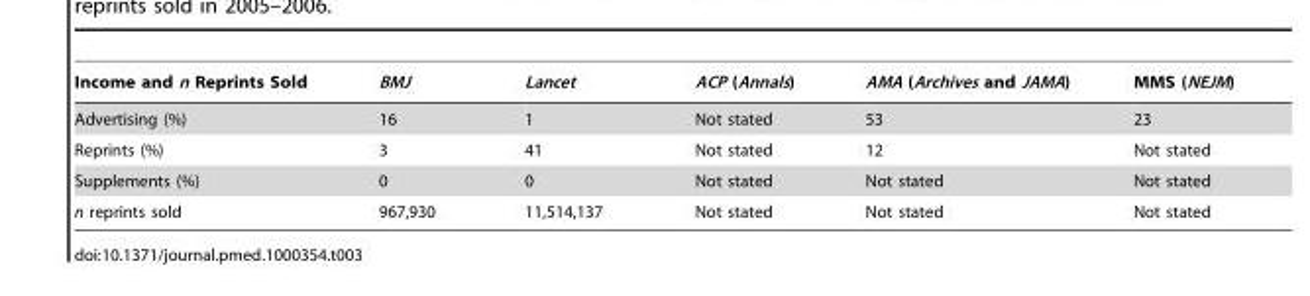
<table><thead><tr><td>Income and n Reprints Sold</td><td>BMJ</td><td>Lancet</td><td>ACP (Annals)</td><td>AMA (Archives and JAMA)</td><td>MMS (NEJM)</td></tr></thead><tbody><tr><td>Advertising (%)</td><td>16</td><td>1</td><td>Not stated</td><td>53</td><td>23</td></tr><tr><td>Reprints (%)</td><td>3</td><td>41</td><td>Not stated</td><td>12</td><td>Not stated</td></tr><tr><td>Supplements (%)</td><td>0</td><td>0</td><td>Not stated</td><td>Not stated</td><td>Not stated</td></tr><tr><td>n reprints sold</td><td>967,930</td><td>11,514,137</td><td>Not stated</td><td>Not stated</td><td>Not stated</td></tr></tbody></table>